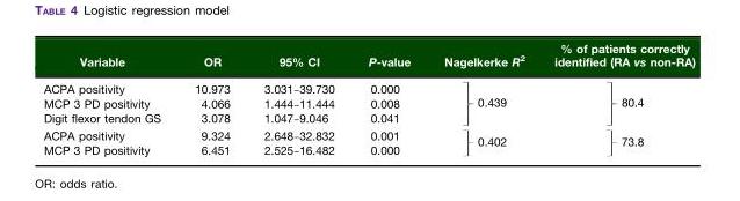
<table><thead><tr><td>Variable</td><td>OR</td><td>95% CI</td><td>P-value</td><td>Nagelkerke R<sup>2</sup></td><td>% of patients correctly identified (RA vs non-RA)</td></tr></thead><tbody><tr><td>ACPA positivity</td><td>10.973</td><td>3.031–39.730</td><td>0.000</td><td rowspan="3">0.439</td><td rowspan="3">80.4</td></tr><tr><td>MCP 3 PD positivity</td><td>4.066</td><td>1.444–11.444</td><td>0.008</td></tr><tr><td>Digit flexor tendon GS</td><td>3.078</td><td>1.047–9.046</td><td>0.041</td></tr><tr><td>ACPA positivity</td><td>9.324</td><td>2.648–32.832</td><td>0.001</td><td rowspan="2">0.402</td><td rowspan="2">73.8</td></tr><tr><td>MCP 3 PD positivity</td><td>6.451</td><td>2.525–16.482</td><td>0.000</td></tr></tbody></table>